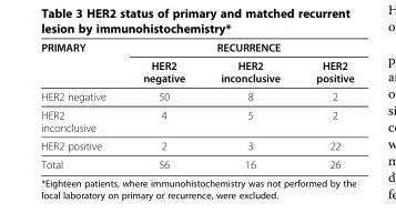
<table><thead><tr><td rowspan="2">PRIMARY</td><td colspan="3">RECURRENCE</td></tr><tr><td>HER2 negative</td><td>HER2 inconclusive</td><td>HER2 positive</td></tr></thead><tbody><tr><td>HER2 negative</td><td>50</td><td>8</td><td>2</td></tr><tr><td>HER2 inconclusive</td><td>4</td><td>5</td><td>2</td></tr><tr><td>HER2 positive</td><td>2</td><td>3</td><td>22</td></tr><tr><td>Total</td><td>56</td><td>16</td><td>26</td></tr></tbody></table>